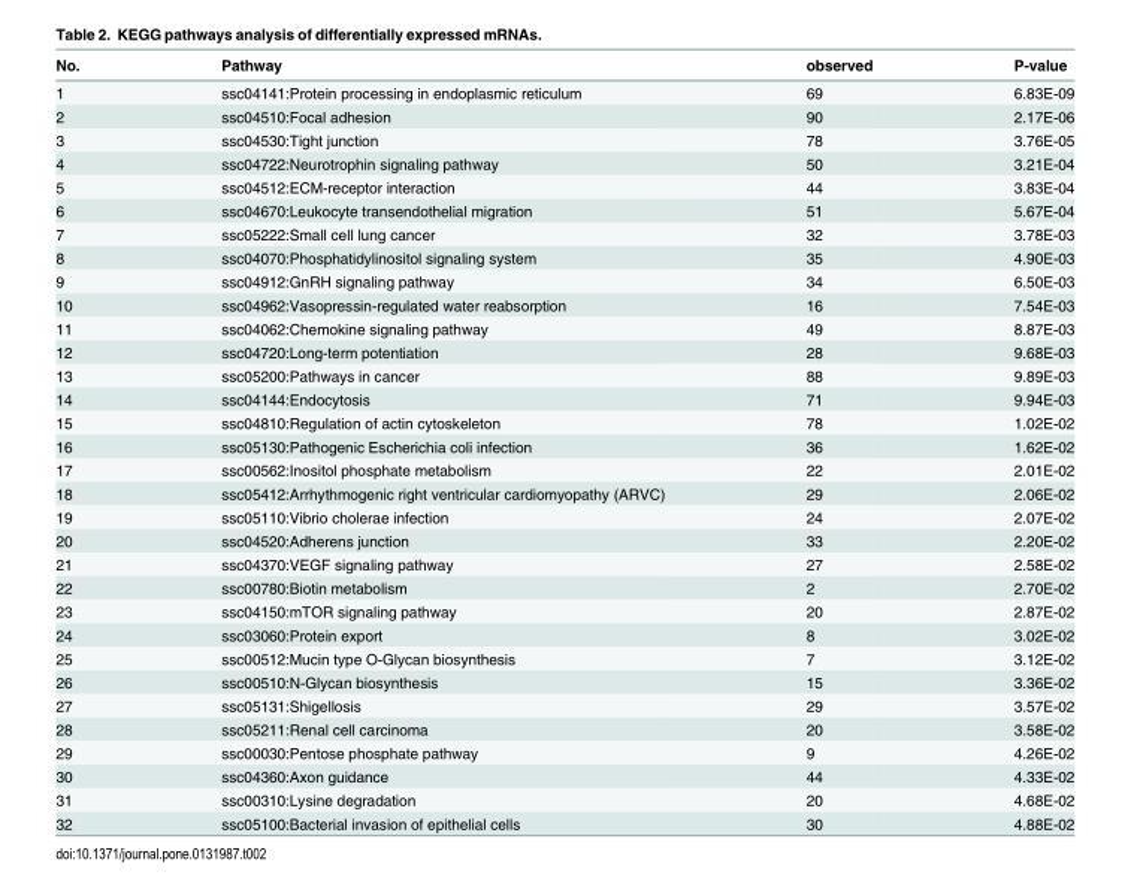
<table><thead><tr><td>No.</td><td>Pathway</td><td>observed</td><td>P-value</td></tr></thead><tbody><tr><td>1</td><td>ssc04141:Protein processing in endoplasmic reticulum</td><td>69</td><td>6.83E-09</td></tr><tr><td>2</td><td>ssc04510:Focal adhesion</td><td>90</td><td>2.17E-06</td></tr><tr><td>3</td><td>ssc04530:Tight junction</td><td>78</td><td>3.76E-05</td></tr><tr><td>4</td><td>ssc04722:Neurotrophin signaling pathway</td><td>50</td><td>3.21E-04</td></tr><tr><td>5</td><td>ssc04512:ECM-receptor interaction</td><td>44</td><td>3.83E-04</td></tr><tr><td>6</td><td>ssc04670:Leukocyte transendothelial migration</td><td>51</td><td>5.67E-04</td></tr><tr><td>7</td><td>ssc05222:Small cell lung cancer</td><td>32</td><td>3.78E-03</td></tr><tr><td>8</td><td>ssc04070:Phosphatidylinositol signaling system</td><td>35</td><td>4.90E-03</td></tr><tr><td>9</td><td>ssc04912:GnRH signaling pathway</td><td>34</td><td>6.50E-03</td></tr><tr><td>10</td><td>ssc04962:Vasopressin-regulated water reabsorption</td><td>16</td><td>7.54E-03</td></tr><tr><td>11</td><td>ssc04062:Chemokine signaling pathway</td><td>49</td><td>8.87E-03</td></tr><tr><td>12</td><td>ssc04720:Long-term potentiation</td><td>28</td><td>9.68E-03</td></tr><tr><td>13</td><td>ssc05200:Pathways in cancer</td><td>88</td><td>9.89E-03</td></tr><tr><td>14</td><td>ssc04144:Endocytosis</td><td>71</td><td>9.94E-03</td></tr><tr><td>15</td><td>ssc04810:Regulation of actin cytoskeleton</td><td>78</td><td>1.02E-02</td></tr><tr><td>16</td><td>ssc05130:Pathogenic Escherichia coli infection</td><td>36</td><td>1.62E-02</td></tr><tr><td>17</td><td>ssc00562:Inositol phosphate metabolism</td><td>22</td><td>2.01E-02</td></tr><tr><td>18</td><td>ssc05412:Arrhythmogenic right ventricular cardiomyopathy (ARVC)</td><td>29</td><td>2.06E-02</td></tr><tr><td>19</td><td>ssc05110:Vibrio cholerae infection</td><td>24</td><td>2.07E-02</td></tr><tr><td>20</td><td>ssc04520:Adherens junction</td><td>33</td><td>2.20E-02</td></tr><tr><td>21</td><td>ssc04370:VEGF signaling pathway</td><td>27</td><td>2.58E-02</td></tr><tr><td>22</td><td>ssc00780:Biotin metabolism</td><td>2</td><td>2.70E-02</td></tr><tr><td>23</td><td>ssc04150:mTOR signaling pathway</td><td>20</td><td>2.87E-02</td></tr><tr><td>24</td><td>ssc03060:Protein export</td><td>8</td><td>3.02E-02</td></tr><tr><td>25</td><td>ssc00512:Mucin type O-Glycan biosynthesis</td><td>7</td><td>3.12E-02</td></tr><tr><td>26</td><td>ssc00510:N-Glycan biosynthesis</td><td>15</td><td>3.36E-02</td></tr><tr><td>27</td><td>ssc05131:Shigellosis</td><td>29</td><td>3.57E-02</td></tr><tr><td>28</td><td>ssc05211:Renal cell carcinoma</td><td>20</td><td>3.58E-02</td></tr><tr><td>29</td><td>ssc00030:Pentose phosphate pathway</td><td>9</td><td>4.26E-02</td></tr><tr><td>30</td><td>ssc04360:Axon guidance</td><td>44</td><td>4.33E-02</td></tr><tr><td>31</td><td>ssc00310:Lysine degradation</td><td>20</td><td>4.68E-02</td></tr><tr><td>32</td><td>ssc05100:Bacterial invasion of epithelial cells</td><td>30</td><td>4.88E-02</td></tr></tbody></table>